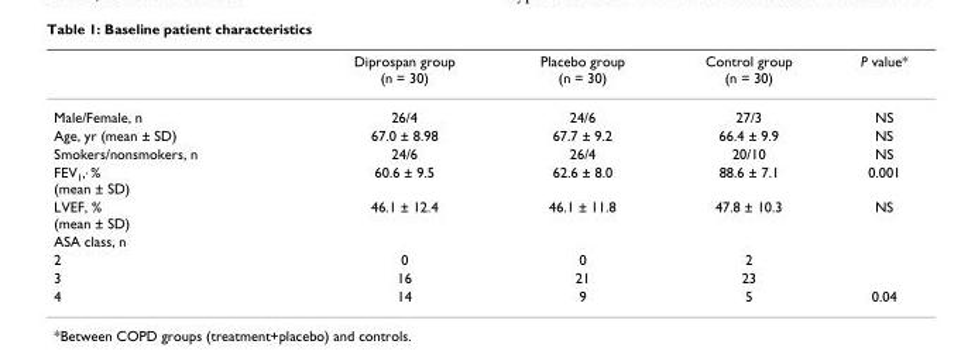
<table><thead><tr><td></td><td>Diprospan group (n = 30)</td><td>Placebo group (n = 30)</td><td>Control group (n = 30)</td><td>P value*</td></tr></thead><tbody><tr><td>Male/Female, n</td><td>26/4</td><td>24/6</td><td>27/3</td><td>NS</td></tr><tr><td>Age, yr (mean ± SD)</td><td>67.0 ± 8.98</td><td>67.7 ± 9.2</td><td>66.4 ± 9.9</td><td>NS</td></tr><tr><td>Smokers/nonsmokers, n</td><td>24/6</td><td>26/4</td><td>20/10</td><td>NS</td></tr><tr><td>FEV<sub>1</sub>,<sup>,</sup> % (mean ± SD)</td><td>60.6 ± 9.5</td><td>62.6 ± 8.0</td><td>88.6 ± 7.1</td><td>0.001</td></tr><tr><td>LVEF, % (mean ± SD)</td><td>46.1 ± 12.4</td><td>46.1 ± 11.8</td><td>47.8 ± 10.3</td><td>NS</td></tr><tr><td colspan="5">ASA class, n</td></tr><tr><td>2</td><td>0</td><td>0</td><td>2</td><td></td></tr><tr><td>3</td><td>16</td><td>21</td><td>23</td><td></td></tr><tr><td>4</td><td>14</td><td>9</td><td>5</td><td>0.04</td></tr></tbody></table>